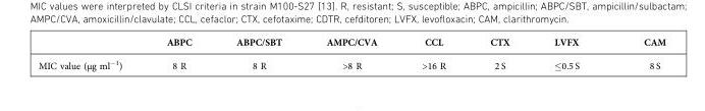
<table><thead><tr><td></td><td>ABPC</td><td>ABPC/SBT</td><td>AMPC/CVA</td><td>CCL</td><td>CTX</td><td>LVFX</td><td>CAM</td></tr></thead><tbody><tr><td>MIC value (µg ml<sup>−1</sup>)</td><td>8 R</td><td>8 R</td><td>&gt;8 R</td><td>&gt;16 R</td><td>2 S</td><td>≤0.5 S</td><td>8 S</td></tr></tbody></table>